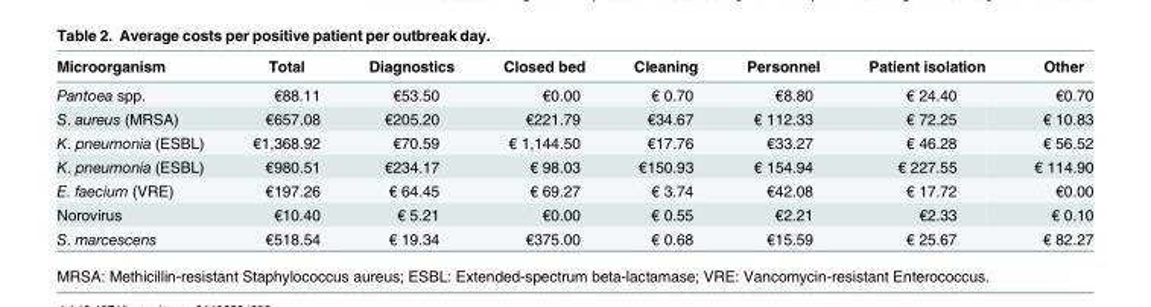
<table><thead><tr><td>Microorganism</td><td>Total</td><td>Diagnostics</td><td>Closed bed</td><td>Cleaning</td><td>Personnel</td><td>Patient isolation</td><td>Other</td></tr></thead><tbody><tr><td>Pantoea spp.</td><td>€88.11</td><td>€53.50</td><td>€0.00</td><td>€ 0.70</td><td>€8.80</td><td>€ 24.40</td><td>€0.70</td></tr><tr><td>S. aureus (MRSA)</td><td>€657.08</td><td>€205.20</td><td>€221.79</td><td>€34.67</td><td>€ 112.33</td><td>€ 72.25</td><td>€ 10.83</td></tr><tr><td>K. pneumonia (ESBL)</td><td>€1,368.92</td><td>€70.59</td><td>€ 1,144.50</td><td>€17.76</td><td>€33.27</td><td>€ 46.28</td><td>€ 56.52</td></tr><tr><td>K. pneumonia (ESBL)</td><td>€980.51</td><td>€234.17</td><td>€ 98.03</td><td>€150.93</td><td>€ 154.94</td><td>€ 227.55</td><td>€ 114.90</td></tr><tr><td>E. faecium (VRE)</td><td>€197.26</td><td>€ 64.45</td><td>€ 69.27</td><td>€ 3.74</td><td>€42.08</td><td>€ 17.72</td><td>€0.00</td></tr><tr><td>Norovirus</td><td>€10.40</td><td>€ 5.21</td><td>€0.00</td><td>€ 0.55</td><td>€2.21</td><td>€2.33</td><td>€ 0.10</td></tr><tr><td>S. marcescens</td><td>€518.54</td><td>€ 19.34</td><td>€375.00</td><td>€ 0.68</td><td>€15.59</td><td>€ 25.67</td><td>€ 82.27</td></tr></tbody></table>